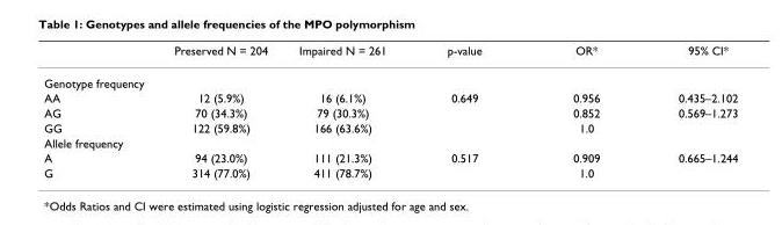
<table><thead><tr><td></td><td>Preserved N = 204</td><td>Impaired N = 261</td><td>p-value</td><td>OR*</td><td>95% CI*</td></tr></thead><tbody><tr><td colspan="6">Genotype frequency</td></tr><tr><td>AA</td><td>12 (5.9%)</td><td>16 (6.1%)</td><td>0.649</td><td>0.956</td><td>0.435–2.102</td></tr><tr><td>AG</td><td>70 (34.3%)</td><td>79 (30.3%)</td><td></td><td>0.852</td><td>0.569–1.273</td></tr><tr><td>GG</td><td>122 (59.8%)</td><td>166 (63.6%)</td><td></td><td>1.0</td><td></td></tr><tr><td colspan="6">Allele frequency</td></tr><tr><td>A</td><td>94 (23.0%)</td><td>111 (21.3%)</td><td>0.517</td><td>0.909</td><td>0.665–1.244</td></tr><tr><td>G</td><td>314 (77.0%)</td><td>411 (78.7%)</td><td></td><td>1.0</td><td></td></tr></tbody></table>